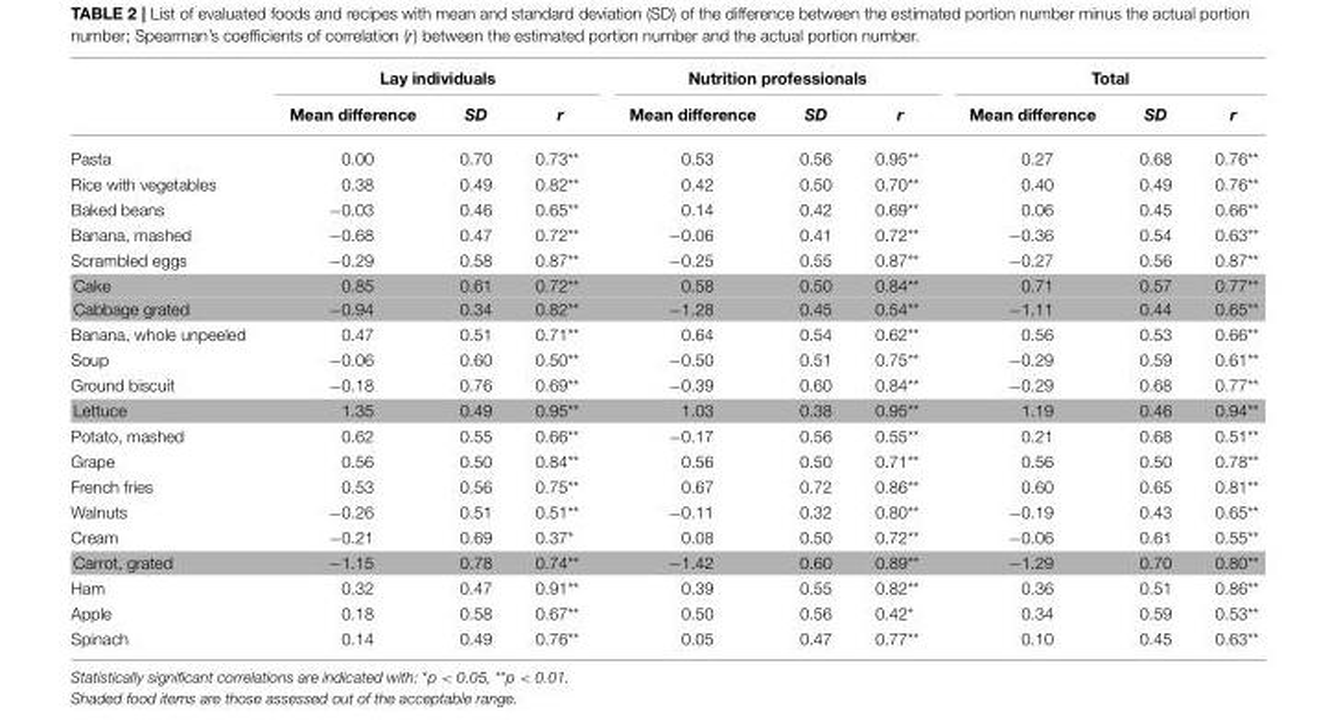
<table><thead><tr><td rowspan="2"></td><td colspan="3">Lay individuals</td><td colspan="3">Nutrition professionals</td><td colspan="3">Total</td></tr><tr><td>Mean difference</td><td>SD</td><td>r</td><td>Mean difference</td><td>SD</td><td>r</td><td>Mean difference</td><td>SD</td><td>r</td></tr></thead><tbody><tr><td>Pasta</td><td>0.00</td><td>0.70</td><td>0.73**</td><td>0.53</td><td>0.56</td><td>0.95**</td><td>0.27</td><td>0.68</td><td>0.76**</td></tr><tr><td>Rice with vegetables</td><td>0.38</td><td>0.49</td><td>0.82**</td><td>0.42</td><td>0.50</td><td>0.70**</td><td>0.40</td><td>0.49</td><td>0.76**</td></tr><tr><td>Baked beans</td><td>−0.03</td><td>0.46</td><td>0.65**</td><td>0.14</td><td>0.42</td><td>0.69**</td><td>0.06</td><td>0.45</td><td>0.66**</td></tr><tr><td>Banana, mashed</td><td>−0.68</td><td>0.47</td><td>0.72**</td><td>−0.06</td><td>0.41</td><td>0.72**</td><td>−0.36</td><td>0.54</td><td>0.63**</td></tr><tr><td>Scrambled eggs</td><td>−0.29</td><td>0.58</td><td>0.87**</td><td>−0.25</td><td>0.55</td><td>0.87**</td><td>−0.27</td><td>0.56</td><td>0.87**</td></tr><tr><td>Cake</td><td>0.85</td><td>0.61</td><td>0.72**</td><td>0.58</td><td>0.50</td><td>0.84**</td><td>0.71</td><td>0.57</td><td>0.77**</td></tr><tr><td>Cabbage grated</td><td>−0.94</td><td>0.34</td><td>0.82**</td><td>−1.28</td><td>0.45</td><td>0.54**</td><td>−1.11</td><td>0.44</td><td>0.65**</td></tr><tr><td>Banana, whole unpeeled</td><td>0.47</td><td>0.51</td><td>0.71**</td><td>0.64</td><td>0.54</td><td>0.62**</td><td>0.56</td><td>0.53</td><td>0.66**</td></tr><tr><td>Soup</td><td>−0.06</td><td>0.60</td><td>0.50**</td><td>−0.50</td><td>0.51</td><td>0.75**</td><td>−0.29</td><td>0.59</td><td>0.61**</td></tr><tr><td>Ground biscuit</td><td>−0.18</td><td>0.76</td><td>0.69**</td><td>−0.39</td><td>0.60</td><td>0.84**</td><td>−0.29</td><td>0.68</td><td>0.77**</td></tr><tr><td>Lettuce</td><td>1.35</td><td>0.49</td><td>0.95**</td><td>1.03</td><td>0.38</td><td>0.95**</td><td>1.19</td><td>0.46</td><td>0.94**</td></tr><tr><td>Potato, mashed</td><td>0.62</td><td>0.55</td><td>0.66**</td><td>−0.17</td><td>0.56</td><td>0.55**</td><td>0.21</td><td>0.68</td><td>0.51**</td></tr><tr><td>Grape</td><td>0.56</td><td>0.50</td><td>0.84**</td><td>0.56</td><td>0.50</td><td>0.71**</td><td>0.56</td><td>0.50</td><td>0.78**</td></tr><tr><td>French fries</td><td>0.53</td><td>0.56</td><td>0.75**</td><td>0.67</td><td>0.72</td><td>0.86**</td><td>0.60</td><td>0.65</td><td>0.81**</td></tr><tr><td>Walnuts</td><td>−0.26</td><td>0.51</td><td>0.51**</td><td>−0.11</td><td>0.32</td><td>0.80**</td><td>−0.19</td><td>0.43</td><td>0.65**</td></tr><tr><td>Cream</td><td>−0.21</td><td>0.69</td><td>0.37*</td><td>0.08</td><td>0.50</td><td>0.72**</td><td>−0.06</td><td>0.61</td><td>0.55**</td></tr><tr><td>Carrot, grated</td><td>−1.15</td><td>0.78</td><td>0.74**</td><td>−1.42</td><td>0.60</td><td>0.89**</td><td>−1.29</td><td>0.70</td><td>0.80**</td></tr><tr><td>Ham</td><td>0.32</td><td>0.47</td><td>0.91**</td><td>0.39</td><td>0.55</td><td>0.82**</td><td>0.36</td><td>0.51</td><td>0.86**</td></tr><tr><td>Apple</td><td>0.18</td><td>0.58</td><td>0.67**</td><td>0.50</td><td>0.56</td><td>0.42*</td><td>0.34</td><td>0.59</td><td>0.53**</td></tr><tr><td>Spinach</td><td>0.14</td><td>0.49</td><td>0.76**</td><td>0.05</td><td>0.47</td><td>0.77**</td><td>0.10</td><td>0.45</td><td>0.63**</td></tr></tbody></table>